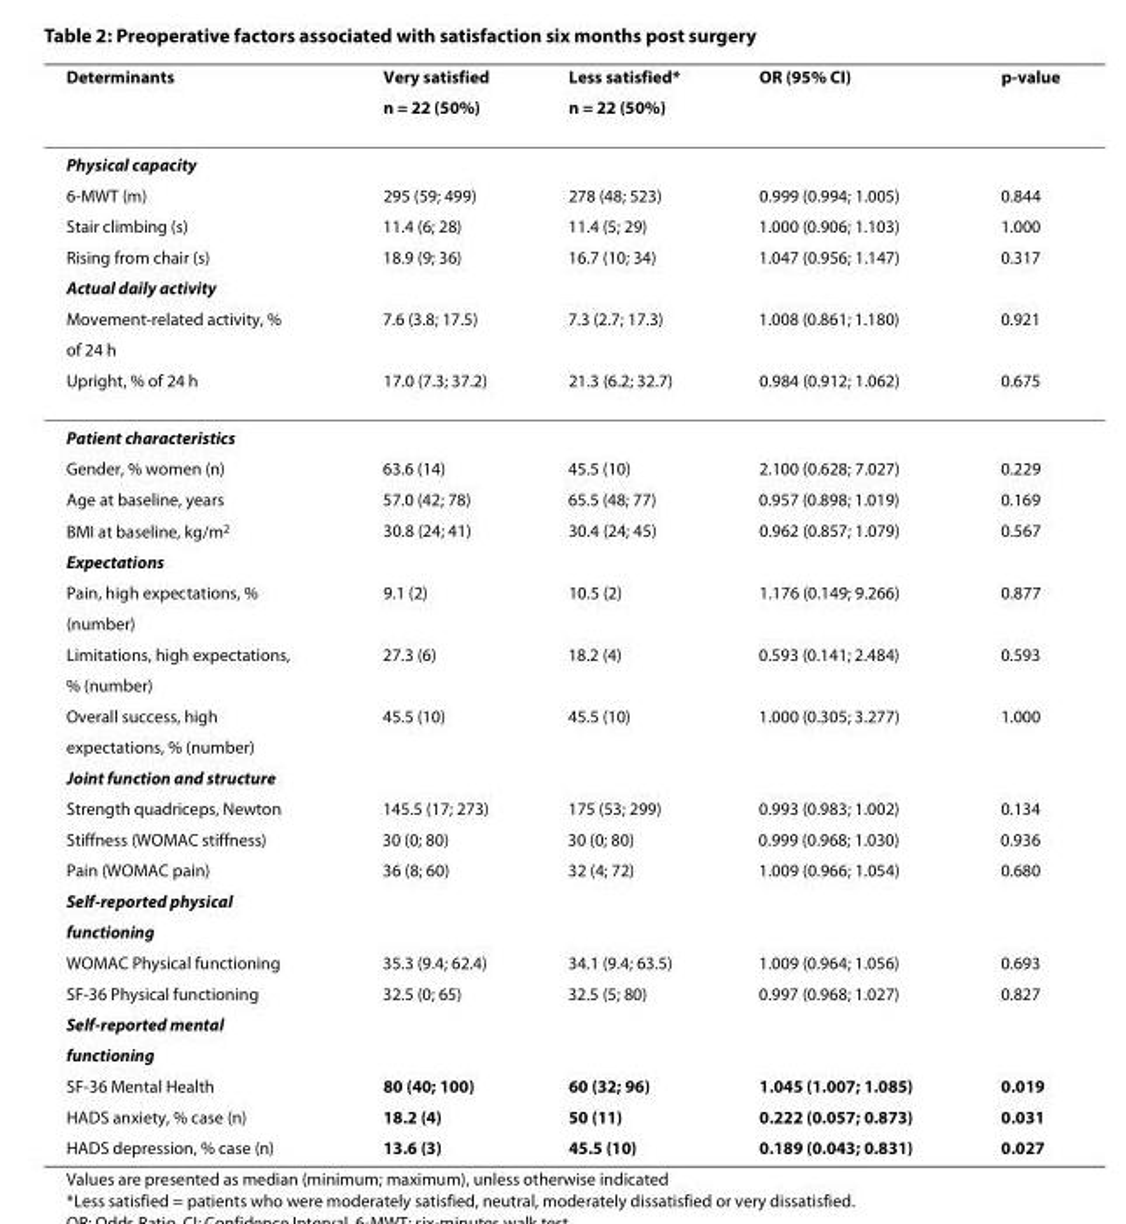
<table><thead><tr><td rowspan="2">Determinants</td><td rowspan="2">Very satisfied n = 22 (50%)</td><td rowspan="2">Less satisfied* n = 22 (50%)</td><td rowspan="2">OR (95% CI)</td><td rowspan="2">p-value</td></tr><tr></tr></thead><tbody><tr><td colspan="5">Physical capacity</td></tr><tr><td>6-MWT (m)</td><td>295 (59; 499)</td><td>278 (48; 523)</td><td>0.999 (0.994; 1.005)</td><td>0.844</td></tr><tr><td>Stair climbing (s)</td><td>11.4 (6; 28)</td><td>11.4 (5; 29)</td><td>1.000 (0.906; 1.103)</td><td>1.000</td></tr><tr><td>Rising from chair (s)</td><td>18.9 (9; 36)</td><td>16.7 (10; 34)</td><td>1.047 (0.956; 1.147)</td><td>0.317</td></tr><tr><td colspan="5">Actual daily activity</td></tr><tr><td>Movement-related activity, %</td><td>7.6 (3.8; 17.5)</td><td>7.3 (2.7; 17.3)</td><td>1.008 (0.861; 1.180)</td><td>0.921</td></tr><tr><td colspan="5">of 24 h</td></tr><tr><td>Upright, % of 24 h</td><td>17.0 (7.3; 37.2)</td><td>21.3 (6.2; 32.7)</td><td>0.984 (0.912; 1.062)</td><td>0.675</td></tr><tr><td colspan="5">Patient characteristics</td></tr><tr><td>Gender, % women (n)</td><td>63.6 (14)</td><td>45.5 (10)</td><td>2.100 (0.628; 7.027)</td><td>0.229</td></tr><tr><td>Age at baseline, years</td><td>57.0 (42; 78)</td><td>65.5 (48; 77)</td><td>0.957 (0.898; 1.019)</td><td>0.169</td></tr><tr><td>BMI at baseline, kg/m<sup>2</sup></td><td>30.8 (24; 41)</td><td>30.4 (24; 45)</td><td>0.962 (0.857; 1.079)</td><td>0.567</td></tr><tr><td colspan="5">Expectations</td></tr><tr><td>Pain, high expectations, %</td><td>9.1 (2)</td><td>10.5 (2)</td><td>1.176 (0.149; 9.266)</td><td>0.877</td></tr><tr><td colspan="5">(number)</td></tr><tr><td>Limitations, high expectations,</td><td>27.3 (6)</td><td>18.2 (4)</td><td>0.593 (0.141; 2.484)</td><td>0.593</td></tr><tr><td colspan="5">% (number)</td></tr><tr><td>Overall success, high</td><td>45.5 (10)</td><td>45.5 (10)</td><td>1.000 (0.305; 3.277)</td><td>1.000</td></tr><tr><td colspan="5">expectations, % (number)</td></tr><tr><td colspan="5">Joint function and structure</td></tr><tr><td>Strength quadriceps, Newton</td><td>145.5 (17; 273)</td><td>175 (53; 299)</td><td>0.993 (0.983; 1.002)</td><td>0.134</td></tr><tr><td>Stiffness (WOMAC stiffness)</td><td>30 (0; 80)</td><td>30 (0; 80)</td><td>0.999 (0.968; 1.030)</td><td>0.936</td></tr><tr><td>Pain (WOMAC pain)</td><td>36 (8; 60)</td><td>32 (4; 72)</td><td>1.009 (0.966; 1.054)</td><td>0.680</td></tr><tr><td colspan="5">Self-reported physical</td></tr><tr><td colspan="5">functioning</td></tr><tr><td>WOMAC Physical functioning</td><td>35.3 (9.4; 62.4)</td><td>34.1 (9.4; 63.5)</td><td>1.009 (0.964; 1.056)</td><td>0.693</td></tr><tr><td>SF-36 Physical functioning</td><td>32.5 (0; 65)</td><td>32.5 (5; 80)</td><td>0.997 (0.968; 1.027)</td><td>0.827</td></tr><tr><td colspan="5">Self-reported mental</td></tr><tr><td colspan="5">functioning</td></tr><tr><td>SF-36 Mental Health</td><td>80 (40; 100)</td><td>60 (32; 96)</td><td>1.045 (1.007; 1.085)</td><td>0.019</td></tr><tr><td>HADS anxiety, % case (n)</td><td>18.2 (4)</td><td>50 (11)</td><td>0.222 (0.057; 0.873)</td><td>0.031</td></tr><tr><td>HADS depression, % case (n)</td><td>13.6 (3)</td><td>45.5 (10)</td><td>0.189 (0.043; 0.831)</td><td>0.027</td></tr></tbody></table>